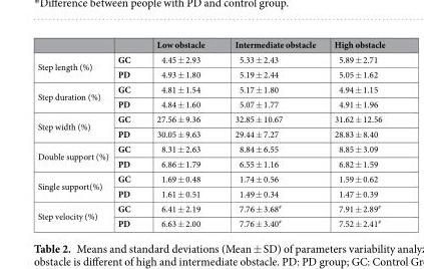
<table><thead><tr><td></td><td></td><td>Low obstacle</td><td>Intermediate obstacle</td><td>High obstacle</td></tr></thead><tbody><tr><td rowspan="2">Step length (%)</td><td>GC</td><td>4.45 ± 2.93</td><td>5.33 ± 2.43</td><td>5.89 ± 2.71</td></tr><tr><td>PD</td><td>4.93 ± 1.80</td><td>5.19 ± 2.44</td><td>5.05 ± 1.62</td></tr><tr><td rowspan="2">Step duration (%)</td><td>GC</td><td>4.81 ± 1.54</td><td>5.17 ± 1.80</td><td>4.94 ± 1.15</td></tr><tr><td>PD</td><td>4.84 ± 1.60</td><td>5.07 ± 1.77</td><td>4.91 ± 1.96</td></tr><tr><td rowspan="2">Step width (%)</td><td>GC</td><td>27.56 ± 9.36</td><td>32.85 ± 10.67</td><td>31.62 ± 12.56</td></tr><tr><td>PD</td><td>30.05 ± 9.63</td><td>29.44 ± 7.27</td><td>28.83 ± 8.40</td></tr><tr><td rowspan="2">Double support (%)</td><td>GC</td><td>8.31 ± 2.63</td><td>8.84 ± 6.55</td><td>8.85 ± 3.09</td></tr><tr><td>PD</td><td>6.86 ± 1.79</td><td>6.55 ± 1.16</td><td>6.82 ± 1.59</td></tr><tr><td rowspan="2">Single support(%)</td><td>GC</td><td>1.69 ± 0.48</td><td>1.74 ± 0.56</td><td>1.59 ± 0.62</td></tr><tr><td>PD</td><td>1.61 ± 0.51</td><td>1.49 ± 0.34</td><td>1.47 ± 0.39</td></tr><tr><td rowspan="2">Step velocity (%)</td><td>GC</td><td>6.41 ± 2.19</td><td>7.76 ± 3.68<sup>#</sup></td><td>7.91 ± 2.89<sup>#</sup></td></tr><tr><td>PD</td><td>6.63 ± 2.00</td><td>7.76 ± 3.40<sup>#</sup></td><td>7.52 ± 2.41<sup>#</sup></td></tr></tbody></table>